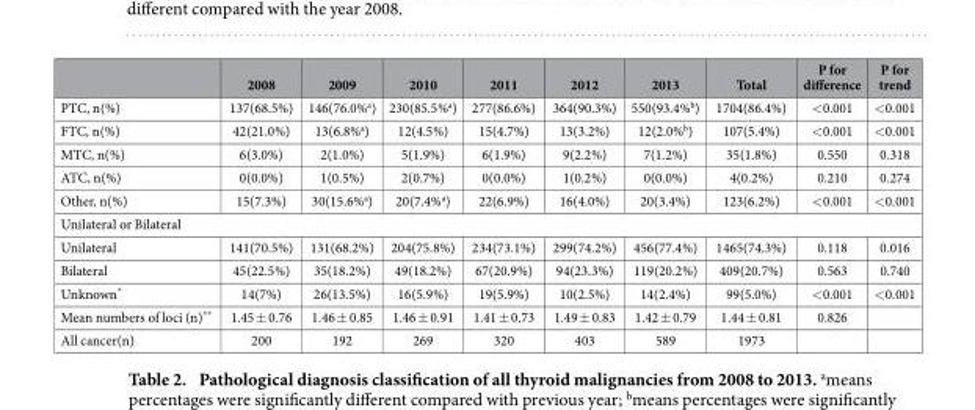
<table><thead><tr><td></td><td>2008</td><td>2009</td><td>2010</td><td>2011</td><td>2012</td><td>2013</td><td>Total</td><td>P for difference</td><td>P for trend</td></tr></thead><tbody><tr><td>PTC, n(%)</td><td>137(68.5%)</td><td>146(76.0%<sup>a</sup>)</td><td>230(85.5%<sup>a</sup>)</td><td>277(86.6%)</td><td>364(90.3%)</td><td>550(93.4%<sup>b</sup>)</td><td>1704(86.4%)</td><td>&lt; 0.001</td><td>&lt; 0.001</td></tr><tr><td>FTC, n(%)</td><td>42(21.0%)</td><td>13(6.8%<sup>a</sup>)</td><td>12(4.5%)</td><td>15(4.7%)</td><td>13(3.2%)</td><td>12(2.0%<sup>b</sup>)</td><td>107(5.4%)</td><td>&lt; 0.001</td><td>&lt; 0.001</td></tr><tr><td>MTC, n(%)</td><td>6(3.0%)</td><td>2(1.0%)</td><td>5(1.9%)</td><td>6(1.9%)</td><td>9(2.2%)</td><td>7(1.2%)</td><td>35(1.8%)</td><td>0.550</td><td>0.318</td></tr><tr><td>ATC, n(%)</td><td>0(0.0%)</td><td>1(0.5%)</td><td>2(0.7%)</td><td>0(0.0%)</td><td>1(0.2%)</td><td>0(0.0%)</td><td>4(0.2%)</td><td>0.210</td><td>0.274</td></tr><tr><td>Other, n(%)</td><td>15(7.3%)</td><td>30(15.6%<sup>a</sup>)</td><td>20(7.4%<sup>a</sup>)</td><td>22(6.9%)</td><td>16(4.0%)</td><td>20(3.4%)</td><td>123(6.2%)</td><td>&lt; 0.001</td><td>&lt; 0.001</td></tr><tr><td colspan="10">Unilateral or Bilateral</td></tr><tr><td>Unilateral</td><td>141(70.5%)</td><td>131(68.2%)</td><td>204(75.8%)</td><td>234(73.1%)</td><td>299(74.2%)</td><td>456(77.4%)</td><td>1465(74.3%)</td><td>0.118</td><td>0.016</td></tr><tr><td>Bilateral</td><td>45(22.5%)</td><td>35(18.2%)</td><td>49(18.2%)</td><td>67(20.9%)</td><td>94(23.3%)</td><td>119(20.2%)</td><td>409(20.7%)</td><td>0.563</td><td>0.740</td></tr><tr><td>Unknown*</td><td>14(7%)</td><td>26(13.5%)</td><td>16(5.9%)</td><td>19(5.9%)</td><td>10(2.5%)</td><td>14(2.4%)</td><td>99(5.0%)</td><td>&lt; 0.001</td><td>&lt; 0.001</td></tr><tr><td>Mean numbers of loci (n)**</td><td>1.45 ± 0.76</td><td>1.46 ± 0.85</td><td>1.46 ± 0.91</td><td>1.41 ± 0.73</td><td>1.49 ± 0.83</td><td>1.42 ± 0.79</td><td>1.44 ± 0.81</td><td>0.826</td><td></td></tr><tr><td>All cancer(n)</td><td>200</td><td>192</td><td>269</td><td>320</td><td>403</td><td>589</td><td>1973</td><td></td><td></td></tr></tbody></table>